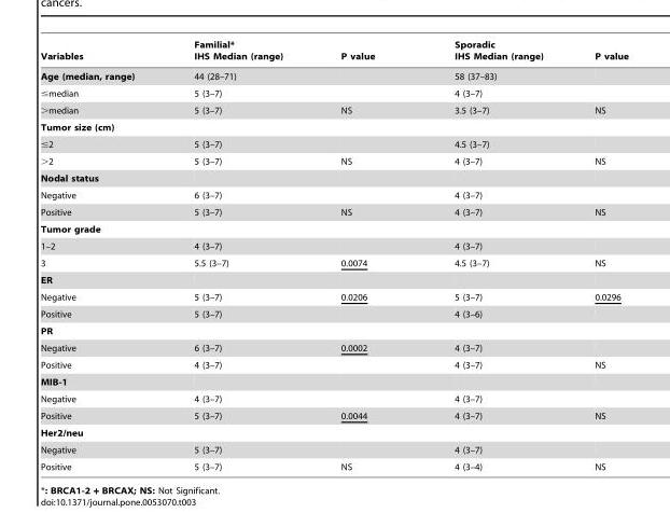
<table><thead><tr><td>Variables</td><td>Familial* IHS Median (range)</td><td>P value</td><td>Sporadic IHS Median (range)</td><td>P value</td></tr></thead><tbody><tr><td>Age (median, range)</td><td>44 (28–71)</td><td></td><td>58 (37–83)</td><td></td></tr><tr><td>≤median</td><td>5 (3–7)</td><td></td><td>4 (3–7)</td><td></td></tr><tr><td>&gt;median</td><td>5 (3–7)</td><td>NS</td><td>3.5 (3–7)</td><td>NS</td></tr><tr><td colspan="5">Tumor size (cm)</td></tr><tr><td>≤2</td><td>5 (3–7)</td><td></td><td>4.5 (3–7)</td><td></td></tr><tr><td>&gt;2</td><td>5 (3–7)</td><td>NS</td><td>4 (3–7)</td><td>NS</td></tr><tr><td colspan="5">Nodal status</td></tr><tr><td>Negative</td><td>6 (3–7)</td><td></td><td>4 (3–7)</td><td></td></tr><tr><td>Positive</td><td>5 (3–7)</td><td>NS</td><td>4 (3–7)</td><td>NS</td></tr><tr><td colspan="5">Tumor grade</td></tr><tr><td>1–2</td><td>4 (3–7)</td><td></td><td>4 (3–7)</td><td></td></tr><tr><td>3</td><td>5.5 (3–7)</td><td>0.0074</td><td>4.5 (3–7)</td><td>NS</td></tr><tr><td colspan="5">ER</td></tr><tr><td>Negative</td><td>5 (3–7)</td><td>0.0206</td><td>5 (3–7)</td><td>0.0296</td></tr><tr><td>Positive</td><td>5 (3–7)</td><td></td><td>4 (3–6)</td><td></td></tr><tr><td colspan="5">PR</td></tr><tr><td>Negative</td><td>6 (3–7)</td><td>0.0002</td><td>4 (3–7)</td><td></td></tr><tr><td>Positive</td><td>4 (3–7)</td><td></td><td>4 (3–7)</td><td>NS</td></tr><tr><td colspan="5">MIB-1</td></tr><tr><td>Negative</td><td>4 (3–7)</td><td></td><td>4 (3–7)</td><td></td></tr><tr><td>Positive</td><td>5 (3–7)</td><td>0.0044</td><td>4 (3–7)</td><td>NS</td></tr><tr><td colspan="5">Her2/neu</td></tr><tr><td>Negative</td><td>5 (3–7)</td><td></td><td>4 (3–7)</td><td></td></tr><tr><td>Positive</td><td>5 (3–7)</td><td>NS</td><td>4 (3–4)</td><td>NS</td></tr></tbody></table>